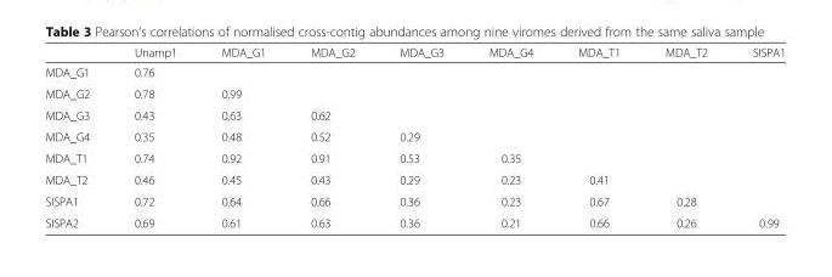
<table><thead><tr><td></td><td>Unamp1</td><td>MDA_G1</td><td>MDA_G2</td><td>MDA_G3</td><td>MDA_G4</td><td>MDA_T1</td><td>MDA_T2</td><td>SISPA1</td></tr></thead><tbody><tr><td>MDA_G1</td><td>0.76</td><td></td><td></td><td></td><td></td><td></td><td></td><td></td></tr><tr><td>MDA_G2</td><td>0.78</td><td>0.99</td><td></td><td></td><td></td><td></td><td></td><td></td></tr><tr><td>MDA_G3</td><td>0.43</td><td>0.63</td><td>0.62</td><td></td><td></td><td></td><td></td><td></td></tr><tr><td>MDA_G4</td><td>0.35</td><td>0.48</td><td>0.52</td><td>0.29</td><td></td><td></td><td></td><td></td></tr><tr><td>MDA_T1</td><td>0.74</td><td>0.92</td><td>0.91</td><td>0.53</td><td>0.35</td><td></td><td></td><td></td></tr><tr><td>MDA_T2</td><td>0.46</td><td>0.45</td><td>0.43</td><td>0.29</td><td>0.23</td><td>0.41</td><td></td><td></td></tr><tr><td>SISPA1</td><td>0.72</td><td>0.64</td><td>0.66</td><td>0.36</td><td>0.23</td><td>0.67</td><td>0.28</td><td></td></tr><tr><td>SISPA2</td><td>0.69</td><td>0.61</td><td>0.63</td><td>0.36</td><td>0.21</td><td>0.66</td><td>0.26</td><td>0.99</td></tr></tbody></table>